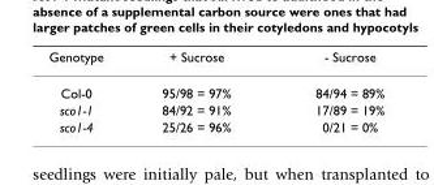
<table><thead><tr><td>Genotype</td><td>+ Sucrose</td><td>- Sucrose</td></tr></thead><tbody><tr><td>Col-0</td><td>95/98 = 97%</td><td>84/94 = 89%</td></tr><tr><td>sco1-1</td><td>84/92 = 91%</td><td>17/89 = 19%</td></tr><tr><td>sco1-4</td><td>25/26 = 96%</td><td>0/21 = 0%</td></tr></tbody></table>